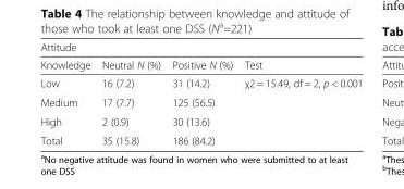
<table><thead><tr><td colspan="4">Attitude</td></tr><tr><td>Knowledge</td><td>Neutral N (%)</td><td>Positive N (%)</td><td>Test</td></tr></thead><tbody><tr><td>Low</td><td>16 (7.2)</td><td>31 (14.2)</td><td>χ2 = 15.49, df = 2, p &lt; 0.001</td></tr><tr><td>Medium</td><td>17 (7.7)</td><td>125 (56.5)</td><td></td></tr><tr><td>High</td><td>2 (0.9)</td><td>30 (13.6)</td><td></td></tr><tr><td>Total</td><td>35 (15.8)</td><td>186 (84.2)</td><td></td></tr></tbody></table>